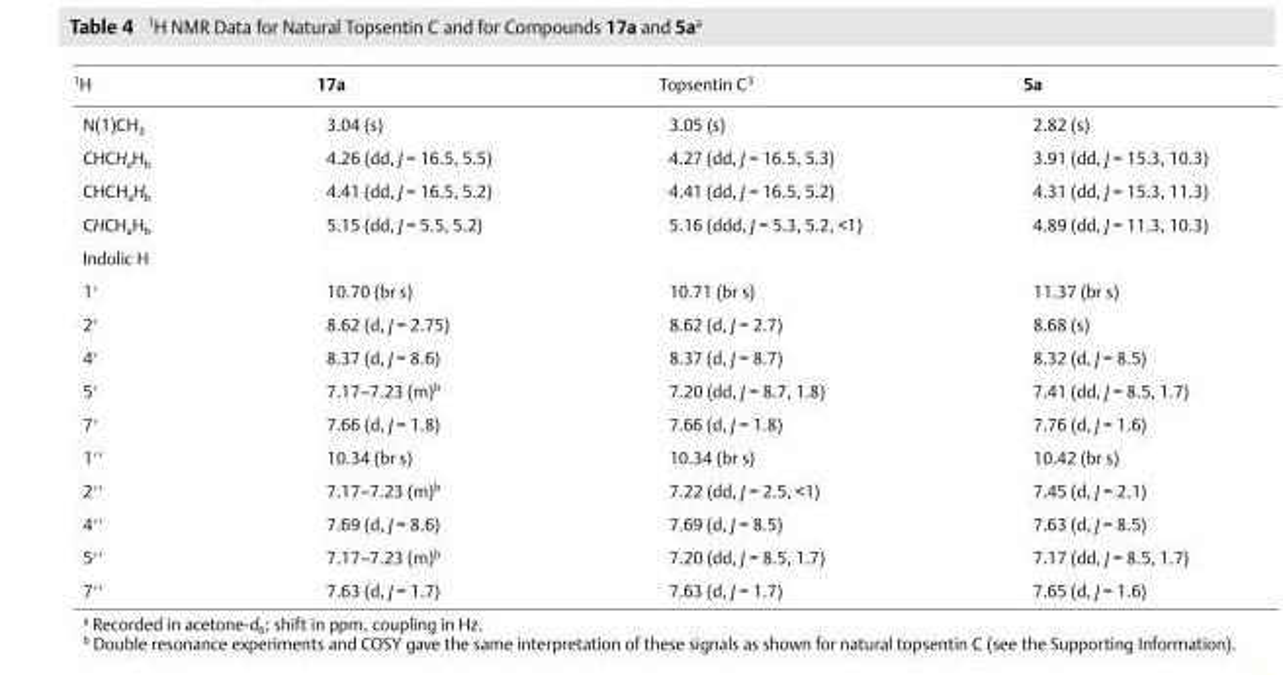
<table><thead><tr><td><sup>1</sup>H</td><td>17a</td><td>Topsentin C<sup>3</sup></td><td>5a</td></tr></thead><tbody><tr><td>N(1)CH<sub>3</sub></td><td>3.04 (s)</td><td>3.05 (s)</td><td>2.82 (s)</td></tr><tr><td>CHCH<sub>a</sub>H<sub>b</sub></td><td>4.26 (dd, J = 16.5, 5.5)</td><td>4.27 (dd, J = 16.5, 5.3)</td><td>3.91 (dd, J = 15.3, 10.3)</td></tr><tr><td>CHCH<sub>a</sub>H<sub>b</sub></td><td>4.41 (dd, J = 16.5, 5.2)</td><td>4.41 (dd, J = 16.5, 5.2)</td><td>4.31 (dd, J = 15.3, 11.3)</td></tr><tr><td>CHCH<sub>a</sub>H<sub>b</sub></td><td>5.15 (dd, J = 5.5, 5.2)</td><td>5.16 (ddd, J = 5.3, 5.2, &lt;1)</td><td>4.89 (dd, J = 11.3, 10.3)</td></tr><tr><td colspan="4">Indolic H</td></tr><tr><td>1′</td><td>10.70 (br s)</td><td>10.71 (br s)</td><td>11.37 (br s)</td></tr><tr><td>2′</td><td>8.62 (d, J = 2.75)</td><td>8.62 (d, J = 2.7)</td><td>8.68 (s)</td></tr><tr><td>4′</td><td>8.37 (d, J = 8.6)</td><td>8.37 (d, J = 8.7)</td><td>8.32 (d, J = 8.5)</td></tr><tr><td>5′</td><td>7.17–7.23 (m)<sup>b</sup></td><td>7.20 (dd, J = 8.7, 1.8)</td><td>7.41 (dd, J = 8.5, 1.7)</td></tr><tr><td>7′</td><td>7.66 (d, J = 1.8)</td><td>7.66 (d, J = 1.8)</td><td>7.76 (d, J = 1.6)</td></tr><tr><td>1′′</td><td>10.34 (br s)</td><td>10.34 (br s)</td><td>10.42 (br s)</td></tr><tr><td>2′′</td><td>7.17–7.23 (m)<sup>b</sup></td><td>7.22 (dd, J = 2.5, &lt;1)</td><td>7.45 (d, J = 2.1)</td></tr><tr><td>4′′</td><td>7.69 (d, J = 8.6)</td><td>7.69 (d, J = 8.5)</td><td>7.63 (d, J = 8.5)</td></tr><tr><td>5′′</td><td>7.17–7.23 (m)<sup>b</sup></td><td>7.20 (dd, J = 8.5, 1.7)</td><td>7.17 (dd, J = 8.5, 1.7)</td></tr><tr><td>7′′</td><td>7.63 (d, J = 1.7)</td><td>7.63 (d, J = 1.7)</td><td>7.65 (d, J = 1.6)</td></tr></tbody></table>